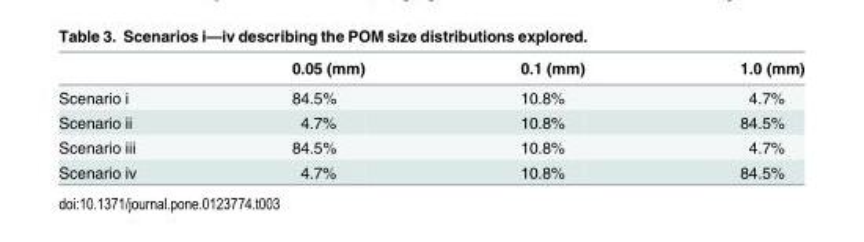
<table><thead><tr><td></td><td>0.05 (mm)</td><td>0.1 (mm)</td><td>1.0 (mm)</td></tr></thead><tbody><tr><td>Scenario i</td><td>84.5%</td><td>10.8%</td><td>4.7%</td></tr><tr><td>Scenario ii</td><td>4.7%</td><td>10.8%</td><td>84.5%</td></tr><tr><td>Scenario iii</td><td>84.5%</td><td>10.8%</td><td>4.7%</td></tr><tr><td>Scenario iv</td><td>4.7%</td><td>10.8%</td><td>84.5%</td></tr></tbody></table>